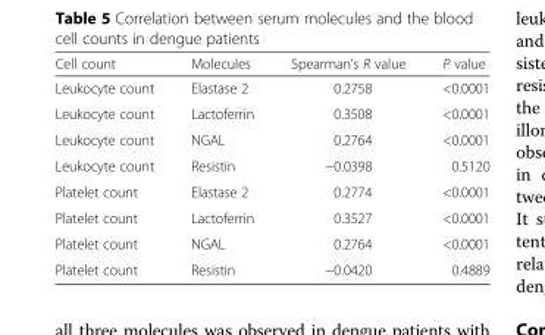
<table><thead><tr><td>Cell count</td><td>Molecules</td><td>Spearman’s R value</td><td>P value</td></tr></thead><tbody><tr><td>Leukocyte count</td><td>Elastase 2</td><td>0.2758</td><td>&lt;0.0001</td></tr><tr><td>Leukocyte count</td><td>Lactoferrin</td><td>0.3508</td><td>&lt;0.0001</td></tr><tr><td>Leukocyte count</td><td>NGAL</td><td>0.2764</td><td>&lt;0.0001</td></tr><tr><td>Leukocyte count</td><td>Resistin</td><td>−0.0398</td><td>0.5120</td></tr><tr><td>Platelet count</td><td>Elastase 2</td><td>0.2774</td><td>&lt;0.0001</td></tr><tr><td>Platelet count</td><td>Lactoferrin</td><td>0.3527</td><td>&lt;0.0001</td></tr><tr><td>Platelet count</td><td>NGAL</td><td>0.2764</td><td>&lt;0.0001</td></tr><tr><td>Platelet count</td><td>Resistin</td><td>−0.0420</td><td>0.4889</td></tr></tbody></table>